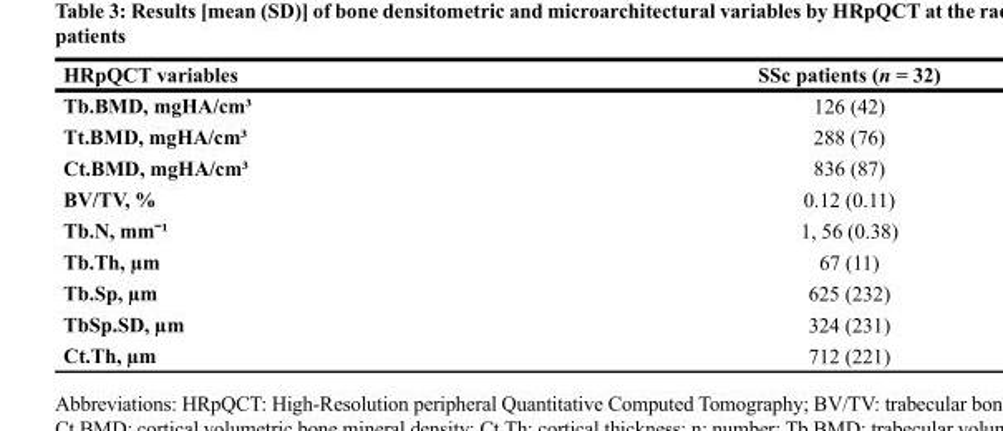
<table><thead><tr><td>HRpQCT variables</td><td>SSc patients (n = 32)</td></tr></thead><tbody><tr><td>Tb.BMD, mgHA/cm³</td><td>126 (42)</td></tr><tr><td>Tt.BMD, mgHA/cm³</td><td>288 (76)</td></tr><tr><td>Ct.BMD, mgHA/cm³</td><td>836 (87)</td></tr><tr><td>BV/TV, %</td><td>0.12 (0.11)</td></tr><tr><td>Tb.N, mmˉ¹</td><td>1, 56 (0.38)</td></tr><tr><td>Tb.Th, µm</td><td>67 (11)</td></tr><tr><td>Tb.Sp, µm</td><td>625 (232)</td></tr><tr><td>TbSp.SD, µm</td><td>324 (231)</td></tr><tr><td>Ct.Th, µm</td><td>712 (221)</td></tr></tbody></table>